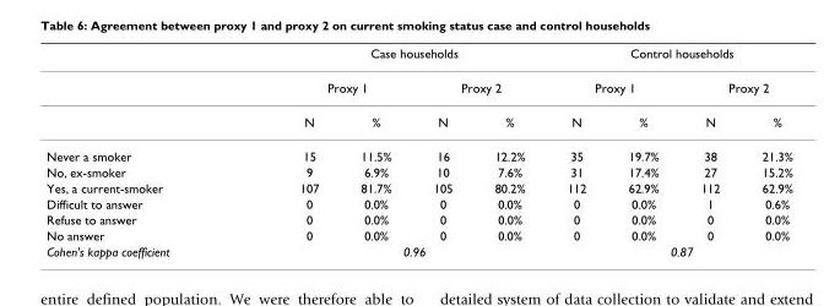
<table><thead><tr><td rowspan="3"></td><td colspan="4">Case households</td><td colspan="4">Control households</td></tr><tr><td colspan="2">Proxy 1</td><td colspan="2">Proxy 2</td><td colspan="2">Proxy 1</td><td colspan="2">Proxy 2</td></tr><tr><td>N</td><td>%</td><td>N</td><td>%</td><td>N</td><td>%</td><td>N</td><td>%</td></tr></thead><tbody><tr><td>Never a smoker</td><td>15</td><td>11.5%</td><td>16</td><td>12.2%</td><td>35</td><td>19.7%</td><td>38</td><td>21.3%</td></tr><tr><td>No, ex-smoker</td><td>9</td><td>6.9%</td><td>10</td><td>7.6%</td><td>31</td><td>17.4%</td><td>27</td><td>15.2%</td></tr><tr><td>Yes, a current-smoker</td><td>107</td><td>81.7%</td><td>105</td><td>80.2%</td><td>112</td><td>62.9%</td><td>112</td><td>62.9%</td></tr><tr><td>Difficult to answer</td><td>0</td><td>0.0%</td><td>0</td><td>0.0%</td><td>0</td><td>0.0%</td><td>1</td><td>0.6%</td></tr><tr><td>Refuse to answer</td><td>0</td><td>0.0%</td><td>0</td><td>0.0%</td><td>0</td><td>0.0%</td><td>0</td><td>0.0%</td></tr><tr><td>No answer</td><td>0</td><td>0.0%</td><td>0</td><td>0.0%</td><td>0</td><td>0.0%</td><td>0</td><td>0.0%</td></tr><tr><td>Cohen&#x27;s kappa coefficient</td><td colspan="4">0.96</td><td colspan="4">0.87</td></tr></tbody></table>